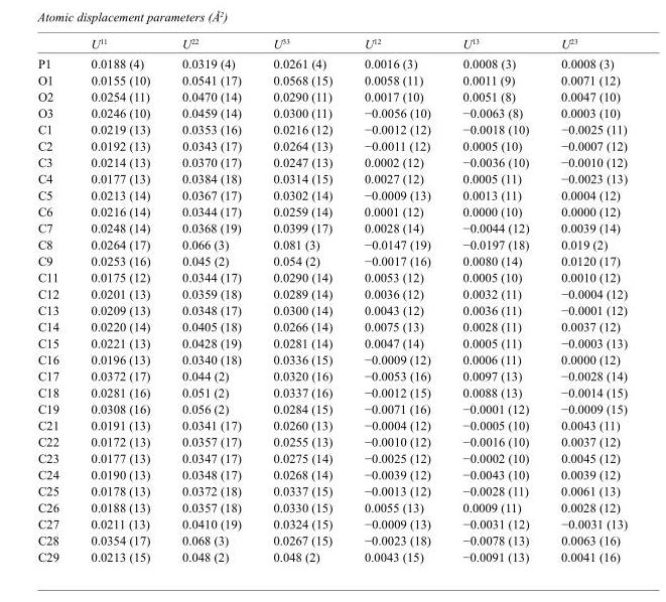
<table><thead><tr><td></td><td>U<sup>11</sup></td><td>U<sup>22</sup></td><td>U<sup>33</sup></td><td>U<sup>12</sup></td><td>U<sup>13</sup></td><td>U<sup>23</sup></td></tr></thead><tbody><tr><td>P1</td><td>0.0188 (4)</td><td>0.0319 (4)</td><td>0.0261 (4)</td><td>0.0016 (3)</td><td>0.0008 (3)</td><td>0.0008 (3)</td></tr><tr><td>O1</td><td>0.0155 (10)</td><td>0.0541 (17)</td><td>0.0568 (15)</td><td>0.0058 (11)</td><td>0.0011 (9)</td><td>0.0071 (12)</td></tr><tr><td>O2</td><td>0.0254 (11)</td><td>0.0470 (14)</td><td>0.0290 (11)</td><td>0.0017 (10)</td><td>0.0051 (8)</td><td>0.0047 (10)</td></tr><tr><td>O3</td><td>0.0246 (10)</td><td>0.0459 (14)</td><td>0.0300 (11)</td><td>−0.0056 (10)</td><td>−0.0063 (8)</td><td>0.0003 (10)</td></tr><tr><td>C1</td><td>0.0219 (13)</td><td>0.0353 (16)</td><td>0.0216 (12)</td><td>−0.0012 (12)</td><td>−0.0018 (10)</td><td>−0.0025 (11)</td></tr><tr><td>C2</td><td>0.0192 (13)</td><td>0.0343 (17)</td><td>0.0264 (13)</td><td>−0.0011 (12)</td><td>0.0005 (10)</td><td>−0.0007 (12)</td></tr><tr><td>C3</td><td>0.0214 (13)</td><td>0.0370 (17)</td><td>0.0247 (13)</td><td>0.0002 (12)</td><td>−0.0036 (10)</td><td>−0.0010 (12)</td></tr><tr><td>C4</td><td>0.0177 (13)</td><td>0.0384 (18)</td><td>0.0314 (15)</td><td>0.0027 (12)</td><td>0.0005 (11)</td><td>−0.0023 (13)</td></tr><tr><td>C5</td><td>0.0213 (14)</td><td>0.0367 (17)</td><td>0.0302 (14)</td><td>−0.0009 (13)</td><td>0.0013 (11)</td><td>0.0004 (12)</td></tr><tr><td>C6</td><td>0.0216 (14)</td><td>0.0344 (17)</td><td>0.0259 (14)</td><td>0.0001 (12)</td><td>0.0000 (10)</td><td>0.0000 (12)</td></tr><tr><td>C7</td><td>0.0248 (14)</td><td>0.0368 (19)</td><td>0.0399 (17)</td><td>0.0028 (14)</td><td>−0.0044 (12)</td><td>0.0039 (14)</td></tr><tr><td>C8</td><td>0.0264 (17)</td><td>0.066 (3)</td><td>0.081 (3)</td><td>−0.0147 (19)</td><td>−0.0197 (18)</td><td>0.019 (2)</td></tr><tr><td>C9</td><td>0.0253 (16)</td><td>0.045 (2)</td><td>0.054 (2)</td><td>−0.0017 (16)</td><td>0.0080 (14)</td><td>0.0120 (17)</td></tr><tr><td>C11</td><td>0.0175 (12)</td><td>0.0344 (17)</td><td>0.0290 (14)</td><td>0.0053 (12)</td><td>0.0005 (10)</td><td>0.0010 (12)</td></tr><tr><td>C12</td><td>0.0201 (13)</td><td>0.0359 (18)</td><td>0.0289 (14)</td><td>0.0036 (12)</td><td>0.0032 (11)</td><td>−0.0004 (12)</td></tr><tr><td>C13</td><td>0.0209 (13)</td><td>0.0348 (17)</td><td>0.0300 (14)</td><td>0.0043 (12)</td><td>0.0036 (11)</td><td>−0.0001 (12)</td></tr><tr><td>C14</td><td>0.0220 (14)</td><td>0.0405 (18)</td><td>0.0266 (14)</td><td>0.0075 (13)</td><td>0.0028 (11)</td><td>0.0037 (12)</td></tr><tr><td>C15</td><td>0.0221 (13)</td><td>0.0428 (19)</td><td>0.0281 (14)</td><td>0.0047 (14)</td><td>0.0005 (11)</td><td>−0.0003 (13)</td></tr><tr><td>C16</td><td>0.0196 (13)</td><td>0.0340 (18)</td><td>0.0336 (15)</td><td>−0.0009 (12)</td><td>0.0006 (11)</td><td>0.0000 (12)</td></tr><tr><td>C17</td><td>0.0372 (17)</td><td>0.044 (2)</td><td>0.0320 (16)</td><td>−0.0053 (16)</td><td>0.0097 (13)</td><td>−0.0028 (14)</td></tr><tr><td>C18</td><td>0.0281 (16)</td><td>0.051 (2)</td><td>0.0337 (16)</td><td>−0.0012 (15)</td><td>0.0088 (13)</td><td>−0.0014 (15)</td></tr><tr><td>C19</td><td>0.0308 (16)</td><td>0.056 (2)</td><td>0.0284 (15)</td><td>−0.0071 (16)</td><td>−0.0001 (12)</td><td>−0.0009 (15)</td></tr><tr><td>C21</td><td>0.0191 (13)</td><td>0.0341 (17)</td><td>0.0260 (13)</td><td>−0.0004 (12)</td><td>−0.0005 (10)</td><td>0.0043 (11)</td></tr><tr><td>C22</td><td>0.0172 (13)</td><td>0.0357 (17)</td><td>0.0255 (13)</td><td>−0.0010 (12)</td><td>−0.0016 (10)</td><td>0.0037 (12)</td></tr><tr><td>C23</td><td>0.0177 (13)</td><td>0.0347 (17)</td><td>0.0275 (14)</td><td>−0.0025 (12)</td><td>−0.0002 (10)</td><td>0.0045 (12)</td></tr><tr><td>C24</td><td>0.0190 (13)</td><td>0.0348 (17)</td><td>0.0268 (14)</td><td>−0.0039 (12)</td><td>−0.0043 (10)</td><td>0.0039 (12)</td></tr><tr><td>C25</td><td>0.0178 (13)</td><td>0.0372 (18)</td><td>0.0337 (15)</td><td>−0.0013 (12)</td><td>−0.0028 (11)</td><td>0.0061 (13)</td></tr><tr><td>C26</td><td>0.0188 (13)</td><td>0.0357 (18)</td><td>0.0330 (15)</td><td>0.0055 (13)</td><td>0.0009 (11)</td><td>0.0028 (12)</td></tr><tr><td>C27</td><td>0.0211 (13)</td><td>0.0410 (19)</td><td>0.0324 (15)</td><td>−0.0009 (13)</td><td>−0.0031 (12)</td><td>−0.0031 (13)</td></tr><tr><td>C28</td><td>0.0354 (17)</td><td>0.068 (3)</td><td>0.0267 (15)</td><td>−0.0023 (18)</td><td>−0.0078 (13)</td><td>0.0063 (16)</td></tr><tr><td>C29</td><td>0.0213 (15)</td><td>0.048 (2)</td><td>0.048 (2)</td><td>0.0043 (15)</td><td>−0.0091 (13)</td><td>0.0041 (16)</td></tr></tbody></table>